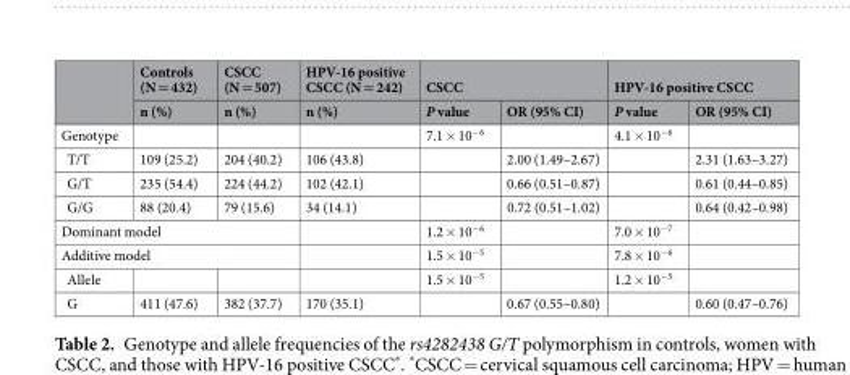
<table><thead><tr><td rowspan="2"></td><td rowspan="2">Controls (N = 432) n (%)</td><td rowspan="2">CSCC (N = 507) n (%)</td><td rowspan="2">HPV-16 positive CSCC (N = 242) n (%)</td><td colspan="2">CSCC</td><td colspan="2">HPV-16 positive CSCC</td></tr><tr><td>P value</td><td>OR (95% CI)</td><td>P value</td><td>OR (95% CI)</td></tr></thead><tbody><tr><td>Genotype</td><td></td><td></td><td></td><td>7.1 × 10<sup>−6</sup></td><td></td><td>4.1 × 10<sup>−6</sup></td><td></td></tr><tr><td>T/T</td><td>109 (25.2)</td><td>204 (40.2)</td><td>106 (43.8)</td><td></td><td>2.00 (1.49–2.67)</td><td></td><td>2.31 (1.63–3.27)</td></tr><tr><td>G/T</td><td>235 (54.4)</td><td>224 (44.2)</td><td>102 (42.1)</td><td></td><td>0.66 (0.51–0.87)</td><td></td><td>0.61 (0.44–0.85)</td></tr><tr><td>G/G</td><td>88 (20.4)</td><td>79 (15.6)</td><td>34 (14.1)</td><td></td><td>0.72 (0.51–1.02)</td><td></td><td>0.64 (0.42–0.98)</td></tr><tr><td colspan="3">Dominant model</td><td></td><td>1.2 × 10<sup>−6</sup></td><td></td><td>7.0 × 10<sup>−7</sup></td><td></td></tr><tr><td colspan="3">Additive model</td><td></td><td>1.5 × 10<sup>−5</sup></td><td></td><td>7.8 × 10<sup>−6</sup></td><td></td></tr><tr><td>Allele</td><td></td><td></td><td></td><td>1.5 × 10<sup>−5</sup></td><td></td><td>1.2 × 10<sup>−5</sup></td><td></td></tr><tr><td>G</td><td>411 (47.6)</td><td>382 (37.7)</td><td>170 (35.1)</td><td></td><td>0.67 (0.55–0.80)</td><td></td><td>0.60 (0.47–0.76)</td></tr></tbody></table>